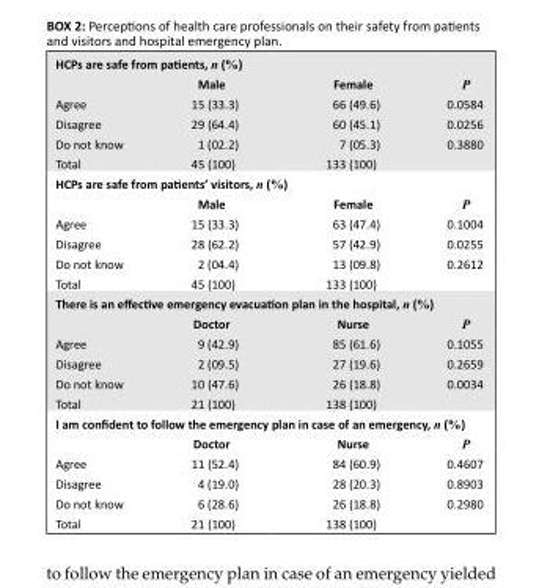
<table><thead><tr><td colspan="4">HCPs are safe from patients, n (%)</td></tr><tr><td></td><td>Male</td><td>Female</td><td>P</td></tr></thead><tbody><tr><td>Agree</td><td>15 (33.3)</td><td>66 (49.6)</td><td>0.0584</td></tr><tr><td>Disagree</td><td>29 (64.4)</td><td>60 (45.1)</td><td>0.0256</td></tr><tr><td>Do not know</td><td>1 (02.2)</td><td>7 (05.3)</td><td>0.3880</td></tr><tr><td>Total</td><td>45 (100)</td><td>133 (100)</td><td></td></tr><tr><td colspan="4">HCPs are safe from patients’ visitors, n (%)</td></tr><tr><td></td><td>Male</td><td>Female</td><td>P</td></tr><tr><td>Agree</td><td>15 (33.3)</td><td>63 (47.4)</td><td>0.1004</td></tr><tr><td>Disagree</td><td>28 (62.2)</td><td>57 (42.9)</td><td>0.0255</td></tr><tr><td>Do not know</td><td>2 (04.4)</td><td>13 (09.8)</td><td>0.2612</td></tr><tr><td>Total</td><td>45 (100)</td><td>133 (100)</td><td></td></tr><tr><td colspan="4">There is an effective emergency evacuation plan in the hospital, n (%)</td></tr><tr><td></td><td>Doctor</td><td>Nurse</td><td>P</td></tr><tr><td>Agree</td><td>9 (42.9)</td><td>85 (61.6)</td><td>0.1055</td></tr><tr><td>Disagree</td><td>2 (09.5)</td><td>27 (19.6)</td><td>0.2659</td></tr><tr><td>Do not know</td><td>10 (47.6)</td><td>26 (18.8)</td><td>0.0034</td></tr><tr><td>Total</td><td>21 (100)</td><td>138 (100)</td><td></td></tr><tr><td colspan="4">I am confident to follow the emergency plan in case of an emergency, n (%)</td></tr><tr><td></td><td>Doctor</td><td>Nurse</td><td>P</td></tr><tr><td>Agree</td><td>11 (52.4)</td><td>84 (60.9)</td><td>0.4607</td></tr><tr><td>Disagree</td><td>4 (19.0)</td><td>28 (20.3)</td><td>0.8903</td></tr><tr><td>Do not know</td><td>6 (28.6)</td><td>26 (18.8)</td><td>0.2980</td></tr><tr><td>Total</td><td>21 (100)</td><td>138 (100)</td><td></td></tr></tbody></table>